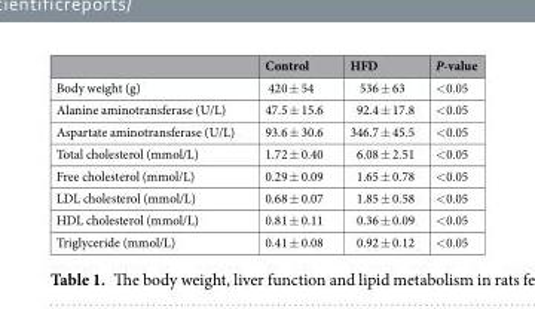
<table><thead><tr><td></td><td>Control</td><td>HFD</td><td>P-value</td></tr></thead><tbody><tr><td>Body weight (g)</td><td>420 ± 54</td><td>536 ± 63</td><td>&lt;0.05</td></tr><tr><td>Alanine aminotransferase (U/L)</td><td>47.5 ± 15.6</td><td>92.4 ± 17.8</td><td>&lt;0.05</td></tr><tr><td>Aspartate aminotransferase (U/L)</td><td>93.6 ± 30.6</td><td>346.7 ± 45.5</td><td>&lt;0.05</td></tr><tr><td>Total cholesterol (mmol/L)</td><td>1.72 ± 0.40</td><td>6.08 ± 2.51</td><td>&lt;0.05</td></tr><tr><td>Free cholesterol (mmol/L)</td><td>0.29 ± 0.09</td><td>1.65 ± 0.78</td><td>&lt;0.05</td></tr><tr><td>LDL cholesterol (mmol/L)</td><td>0.68 ± 0.07</td><td>1.85 ± 0.58</td><td>&lt;0.05</td></tr><tr><td>HDL cholesterol (mmol/L)</td><td>0.81 ± 0.11</td><td>0.36 ± 0.09</td><td>&lt;0.05</td></tr><tr><td>Triglyceride (mmol/L)</td><td>0.41 ± 0.08</td><td>0.92 ± 0.12</td><td>&lt;0.05</td></tr></tbody></table>